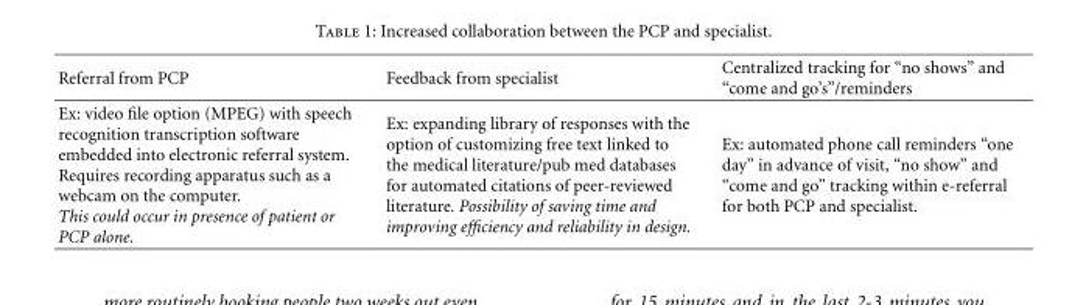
<table><thead><tr><td>Referral from PCP</td><td>Feedback from specialist</td><td>Centralized tracking for “no shows” and “come and go’s”/reminders</td></tr></thead><tbody><tr><td>Ex: video file option (MPEG) with speech recognition transcription software embedded into electronic referral system. Requires recording apparatus such as a webcam on the computer. This could occur in presence of patient or PCP alone.</td><td>Ex: expanding library of responses with the option of customizing free text linked to the medical literature/pub med databases for automated citations of peer-reviewed literature. Possibility of saving time and improving efficiency and reliability in design.</td><td>Ex: automated phone call reminders “one day” in advance of visit, “no show” and “come and go” tracking within e-referral for both PCP and specialist.</td></tr></tbody></table>